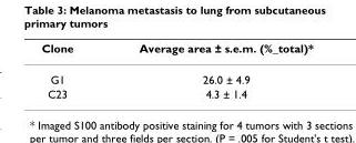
<table><thead><tr><td>Clone</td><td>Average area ± s.e.m. (%_total)*</td></tr></thead><tbody><tr><td>G1</td><td>26.0 ± 4.9</td></tr><tr><td>C23</td><td>4.3 ± 1.4</td></tr></tbody></table>